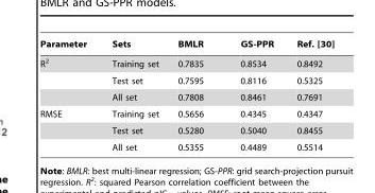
<table><thead><tr><td>Parameter</td><td>Sets</td><td>BMLR</td><td>GS-PPR</td><td>Ref. [30]</td></tr></thead><tbody><tr><td rowspan="3">R<sup>2</sup></td><td>Training set</td><td>0.7835</td><td>0.8534</td><td>0.8492</td></tr><tr><td>Test set</td><td>0.7595</td><td>0.8116</td><td>0.5325</td></tr><tr><td>All set</td><td>0.7808</td><td>0.8461</td><td>0.7691</td></tr><tr><td rowspan="3">RMSE</td><td>Training set</td><td>0.5656</td><td>0.4345</td><td>0.4347</td></tr><tr><td>Test set</td><td>0.5280</td><td>0.5040</td><td>0.8455</td></tr><tr><td>All set</td><td>0.5355</td><td>0.4489</td><td>0.5514</td></tr></tbody></table>